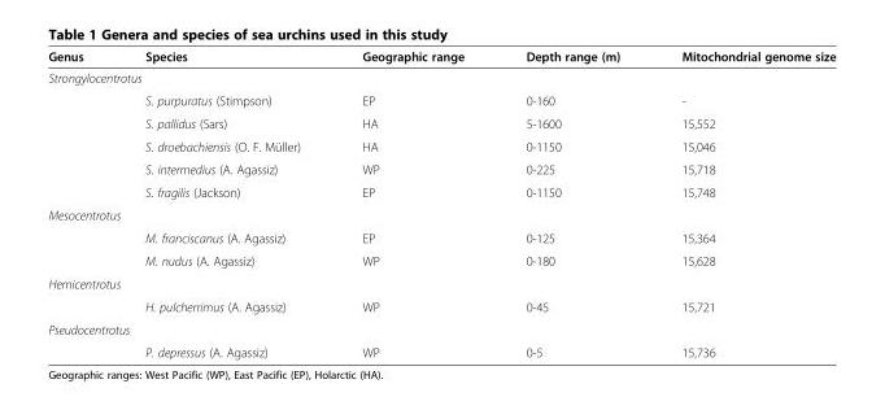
<table><thead><tr><td>Genus</td><td>Species</td><td>Geographic range</td><td>Depth range (m)</td><td>Mitochondrial genome size</td></tr></thead><tbody><tr><td colspan="5">Strongylocentrotus</td></tr><tr><td></td><td>S. purpuratus (Stimpson)</td><td>EP</td><td>0-160</td><td>-</td></tr><tr><td></td><td>S. pallidus (Sars)</td><td>HA</td><td>5-1600</td><td>15,552</td></tr><tr><td></td><td>S. droebachiensis (O. F. Müller)</td><td>HA</td><td>0-1150</td><td>15,046</td></tr><tr><td></td><td>S. intermedius (A. Agassiz)</td><td>WP</td><td>0-225</td><td>15,718</td></tr><tr><td></td><td>S. fragilis (Jackson)</td><td>EP</td><td>0-1150</td><td>15,748</td></tr><tr><td colspan="5">Mesocentrotus</td></tr><tr><td></td><td>M. franciscanus (A. Agassiz)</td><td>EP</td><td>0-125</td><td>15,364</td></tr><tr><td></td><td>M. nudus (A. Agassiz)</td><td>WP</td><td>0-180</td><td>15,628</td></tr><tr><td colspan="5">Hemicentrotus</td></tr><tr><td></td><td>H. pulcherrimus (A. Agassiz)</td><td>WP</td><td>0-45</td><td>15,721</td></tr><tr><td colspan="5">Pseudocentrotus</td></tr><tr><td></td><td>P. depressus (A. Agassiz)</td><td>WP</td><td>0-5</td><td>15,736</td></tr></tbody></table>